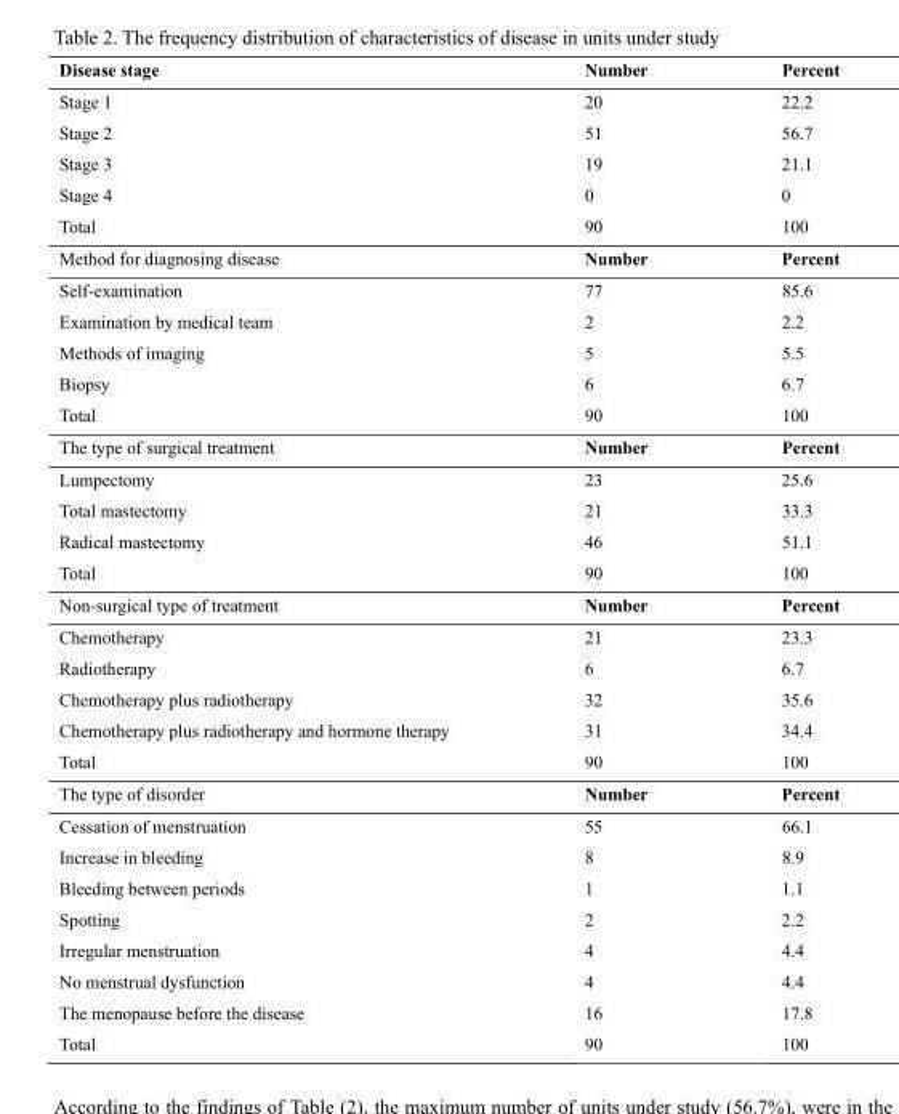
<table><thead><tr><td>Disease stage</td><td>Number</td><td>Percent</td></tr></thead><tbody><tr><td>Stage 1</td><td>20</td><td>22.2</td></tr><tr><td>Stage 2</td><td>51</td><td>56.7</td></tr><tr><td>Stage 3</td><td>19</td><td>21.1</td></tr><tr><td>Stage 4</td><td>0</td><td>0</td></tr><tr><td>Total</td><td>90</td><td>100</td></tr><tr><td>Method for diagnosing disease</td><td>Number</td><td>Percent</td></tr><tr><td>Self-examination</td><td>77</td><td>85.6</td></tr><tr><td>Examination by medical team</td><td>2</td><td>2.2</td></tr><tr><td>Methods of imaging</td><td>5</td><td>5.5</td></tr><tr><td>Biopsy</td><td>6</td><td>6.7</td></tr><tr><td>Total</td><td>90</td><td>100</td></tr><tr><td>The type of surgical treatment</td><td>Number</td><td>Percent</td></tr><tr><td>Lumpectomy</td><td>23</td><td>25.6</td></tr><tr><td>Total mastectomy</td><td>21</td><td>33.3</td></tr><tr><td>Radical mastectomy</td><td>46</td><td>51.1</td></tr><tr><td>Total</td><td>90</td><td>100</td></tr><tr><td>Non-surgical type of treatment</td><td>Number</td><td>Percent</td></tr><tr><td>Chemotherapy</td><td>21</td><td>23.3</td></tr><tr><td>Radiotherapy</td><td>6</td><td>6.7</td></tr><tr><td>Chemotherapy plus radiotherapy</td><td>32</td><td>35.6</td></tr><tr><td>Chemotherapy plus radiotherapy and hormone therapy</td><td>31</td><td>34.4</td></tr><tr><td>Total</td><td>90</td><td>100</td></tr><tr><td>The type of disorder</td><td>Number</td><td>Percent</td></tr><tr><td>Cessation of menstruation</td><td>55</td><td>66.1</td></tr><tr><td>Increase in bleeding</td><td>8</td><td>8.9</td></tr><tr><td>Bleeding between periods</td><td>1</td><td>1.1</td></tr><tr><td>Spotting</td><td>2</td><td>2.2</td></tr><tr><td>Irregular menstruation</td><td>4</td><td>4.4</td></tr><tr><td>No menstrual dysfunction</td><td>4</td><td>4.4</td></tr><tr><td>The menopause before the disease</td><td>16</td><td>17.8</td></tr><tr><td>Total</td><td>90</td><td>100</td></tr></tbody></table>